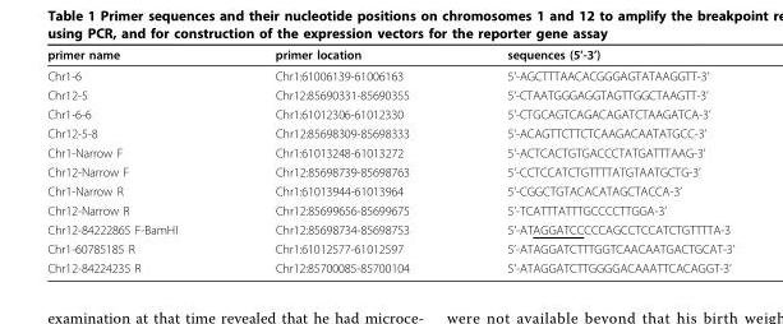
<table><thead><tr><td>primer name</td><td>primer location</td><td>sequences (5’-3’)</td></tr></thead><tbody><tr><td>Chr1-6</td><td>Chr1:61006139-61006163</td><td>5’-AGCTTTAACACGGGAGTATAAGGTT-3’</td></tr><tr><td>Chr12-5</td><td>Chr12:85690331-85690355</td><td>5’-CTAATGGGAGGTAGTTGGCTAAGTT-3’</td></tr><tr><td>Chr1-6-6</td><td>Chr1:61012306-61012330</td><td>5’-CTGCAGTCAGACAGATCTAAGATCA-3’</td></tr><tr><td>Chr12-5-8</td><td>Chr12:85698309-85698333</td><td>5’-ACAGTTCTTCTCAAGACAATATGCC-3’</td></tr><tr><td>Chr1-Narrow F</td><td>Chr1:61013248-61013272</td><td>5’-ACTCACTGTGACCCTATGATTTAAG-3’</td></tr><tr><td>Chr12-Narrow F</td><td>Chr12:85698739-85698763</td><td>5’-CCTCCATCTGTTTTATGTAATGCTG-3’</td></tr><tr><td>Chr1-Narrow R</td><td>Chr1:61013944-61013964</td><td>5’-CGGCTGTACACATAGCTACCA-3’</td></tr><tr><td>Chr12-Narrow R</td><td>Chr12:85699656-85699675</td><td>5’-TCATTTATTTGCCCCTTGGA-3’</td></tr><tr><td>Chr12-84222865 F-BamHI</td><td>Chr12:85698734-85698753</td><td>5’-ATAGGATCCCCCAGCCTCCATCTGTTTTA-3</td></tr><tr><td>Chr1-60785185 R</td><td>Chr1:61012577-61012597</td><td>5’-ATAGGATCTTTGGTCAACAATGACTGCAT-3’</td></tr><tr><td>Chr12-84224235 R</td><td>Chr12:85700085-85700104</td><td>5’-ATAGGATCTTGGGGACAAATTCACAGGT-3’</td></tr></tbody></table>